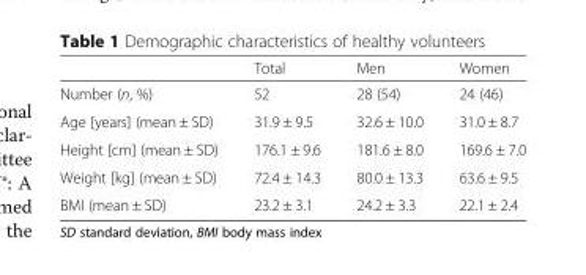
<table><thead><tr><td></td><td>Total</td><td>Men</td><td>Women</td></tr></thead><tbody><tr><td>Number (n, %)</td><td>52</td><td>28 (54)</td><td>24 (46)</td></tr><tr><td>Age [years] (mean ± SD)</td><td>31.9 ± 9.5</td><td>32.6 ± 10.0</td><td>31.0 ± 8.7</td></tr><tr><td>Height [cm] (mean ± SD)</td><td>176.1 ± 9.6</td><td>181.6 ± 8.0</td><td>169.6 ± 7.0</td></tr><tr><td>Weight [kg] (mean ± SD)</td><td>72.4 ± 14.3</td><td>80.0 ± 13.3</td><td>63.6 ± 9.5</td></tr><tr><td>BMI (mean ± SD)</td><td>23.2 ± 3.1</td><td>24.2 ± 3.3</td><td>22.1 ± 2.4</td></tr></tbody></table>